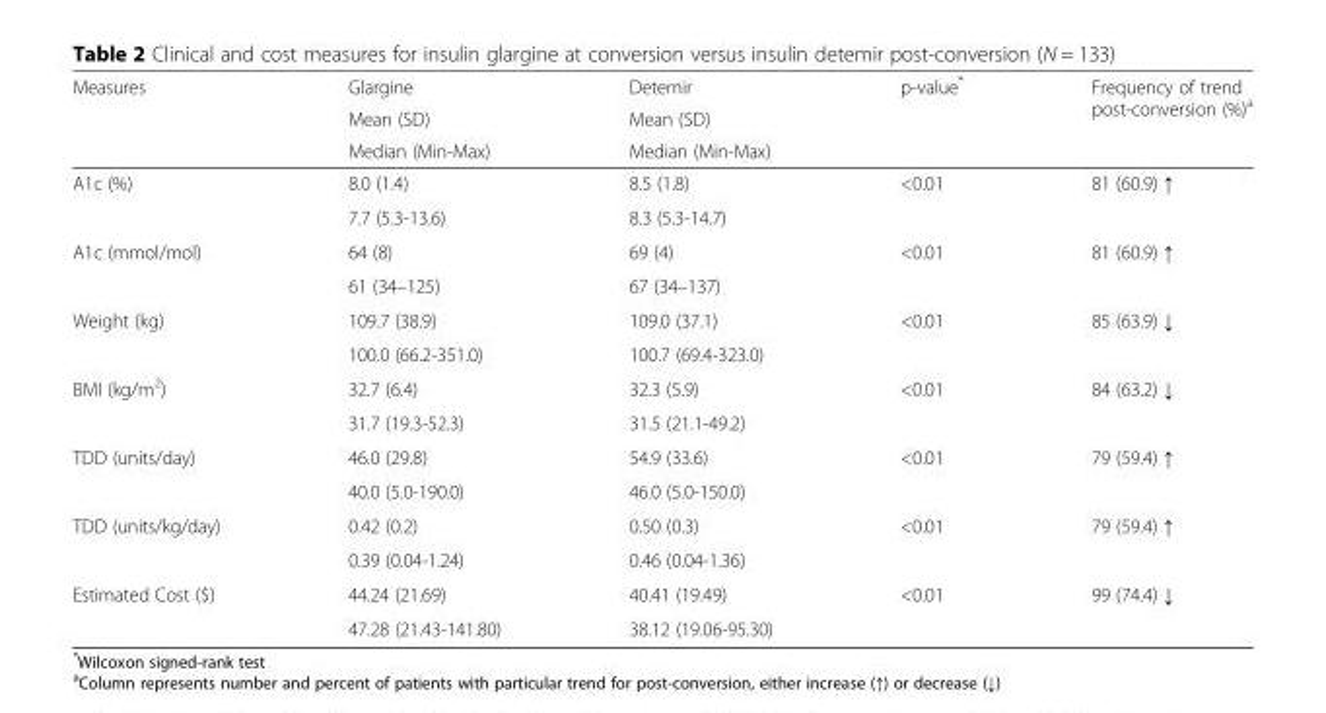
<table><thead><tr><td rowspan="3">Measures</td><td rowspan="3">Glargine Mean (SD) Median (Min-Max)</td><td rowspan="3">Detemir Mean (SD) Median (Min-Max)</td><td rowspan="3">p-value*</td><td rowspan="3">Frequency of trend post-conversion (%)<sup>a</sup></td></tr><tr></tr><tr></tr></thead><tbody><tr><td rowspan="2">A1c (%)</td><td>8.0 (1.4)</td><td>8.5 (1.8)</td><td rowspan="2">&lt;0.01</td><td rowspan="2">81 (60.9) ↑</td></tr><tr><td>7.7 (5.3-13.6)</td><td>8.3 (5.3-14.7)</td></tr><tr><td rowspan="2">A1c (mmol/mol)</td><td>64 (8)</td><td>69 (4)</td><td rowspan="2">&lt;0.01</td><td rowspan="2">81 (60.9) ↑</td></tr><tr><td>61 (34–125)</td><td>67 (34–137)</td></tr><tr><td rowspan="2">Weight (kg)</td><td>109.7 (38.9)</td><td>109.0 (37.1)</td><td rowspan="2">&lt;0.01</td><td rowspan="2">85 (63.9) ↓</td></tr><tr><td>100.0 (66.2-351.0)</td><td>100.7 (69.4-323.0)</td></tr><tr><td rowspan="2">BMI (kg/m<sup>2</sup>)</td><td>32.7 (6.4)</td><td>32.3 (5.9)</td><td rowspan="2">&lt;0.01</td><td rowspan="2">84 (63.2) ↓</td></tr><tr><td>31.7 (19.3-52.3)</td><td>31.5 (21.1-49.2)</td></tr><tr><td rowspan="2">TDD (units/day)</td><td>46.0 (29.8)</td><td>54.9 (33.6)</td><td rowspan="2">&lt;0.01</td><td rowspan="2">79 (59.4) ↑</td></tr><tr><td>40.0 (5.0-190.0)</td><td>46.0 (5.0-150.0)</td></tr><tr><td rowspan="2">TDD (units/kg/day)</td><td>0.42 (0.2)</td><td>0.50 (0.3)</td><td rowspan="2">&lt;0.01</td><td rowspan="2">79 (59.4) ↑</td></tr><tr><td>0.39 (0.04-1.24)</td><td>0.46 (0.04-1.36)</td></tr><tr><td rowspan="2">Estimated Cost ($)</td><td>44.24 (21.69)</td><td>40.41 (19.49)</td><td rowspan="2">&lt;0.01</td><td rowspan="2">99 (74.4) ↓</td></tr><tr><td>47.28 (21.43-141.80)</td><td>38.12 (19.06-95.30)</td></tr></tbody></table>